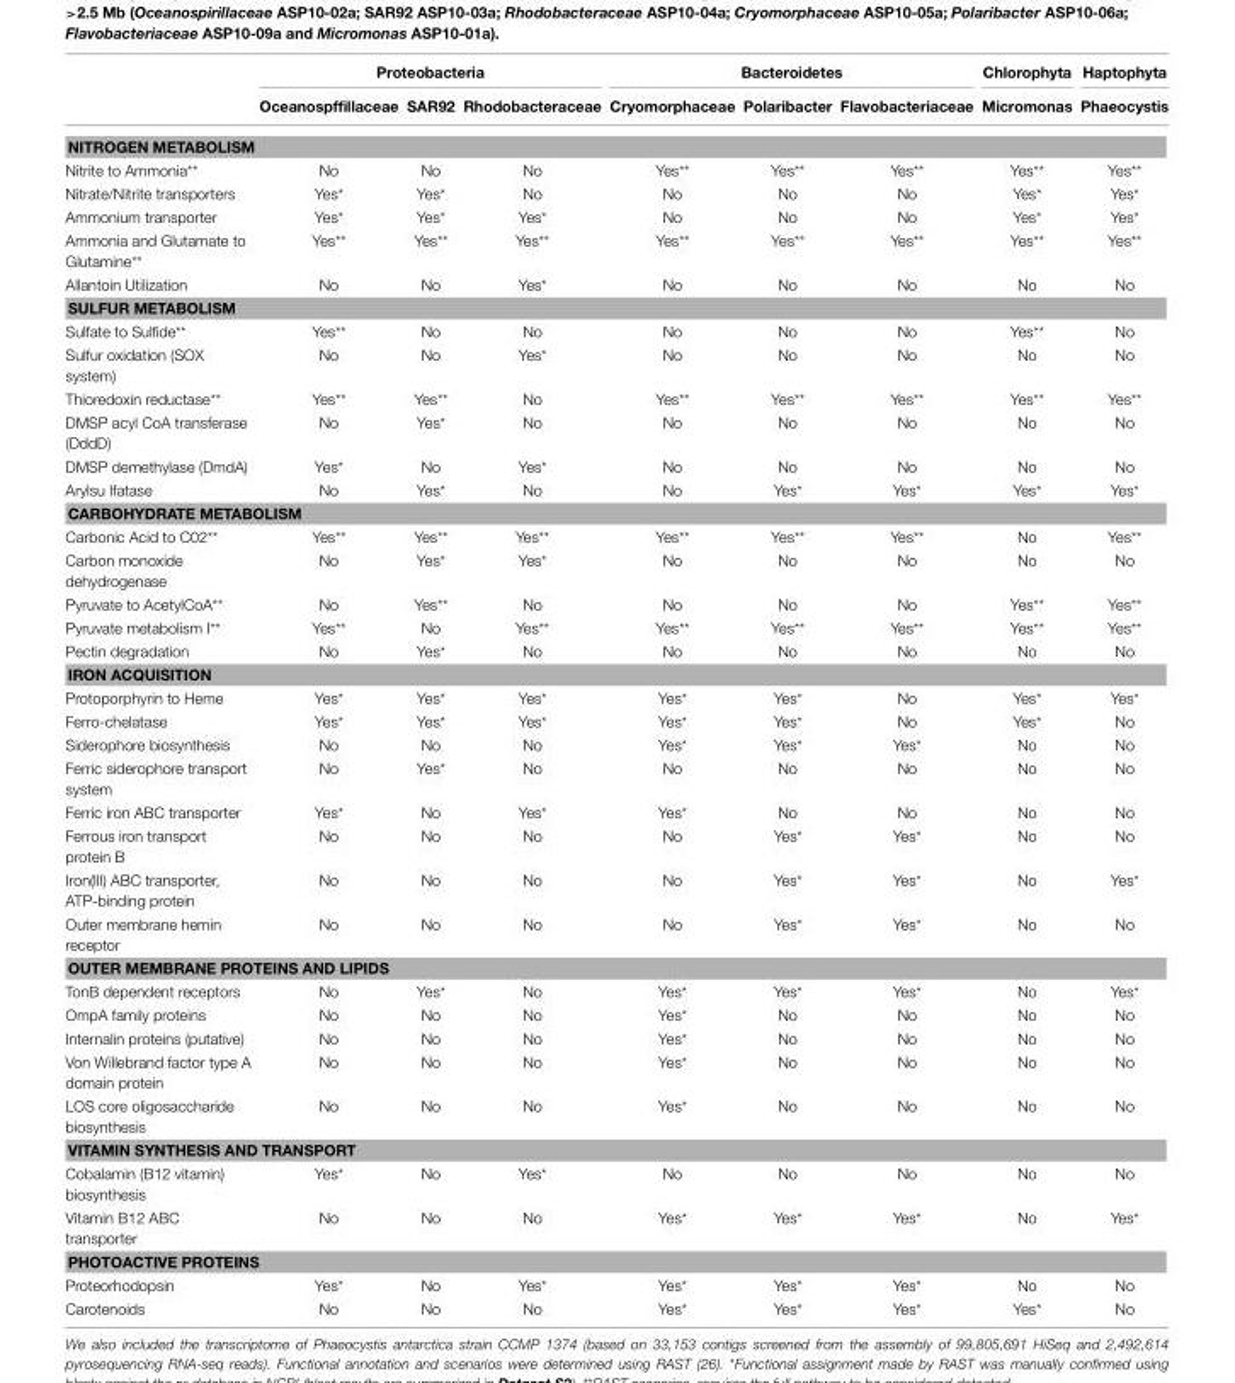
<table><thead><tr><td rowspan="2"></td><td colspan="3">Proteobacteria</td><td colspan="3">Bacteroidetes</td><td rowspan="2">Chlorophyta Micromonas</td><td rowspan="2">Haptophyta Phaeocystis</td></tr><tr><td>Oceanospffillaceae</td><td>SAR92</td><td>Rhodobacteraceae</td><td>Cryomorphaceae</td><td>Polaribacter</td><td>Flavobacteriaceae</td></tr></thead><tbody><tr><td colspan="9">NITROGEN METABOLISM</td></tr><tr><td>Nitrite to Ammonia**</td><td>No</td><td>No</td><td>No</td><td>Yes**</td><td>Yes**</td><td>Yes**</td><td>Yes**</td><td>Yes**</td></tr><tr><td>Nitrate/Nitrite transporters</td><td>Yes*</td><td>Yes*</td><td>No</td><td>No</td><td>No</td><td>No</td><td>Yes*</td><td>Yes*</td></tr><tr><td>Ammonium transporter</td><td>Yes*</td><td>Yes*</td><td>Yes*</td><td>No</td><td>No</td><td>No</td><td>Yes*</td><td>Yes*</td></tr><tr><td>Ammonia and Glutamate to Glutamine**</td><td>Yes**</td><td>Yes**</td><td>Yes**</td><td>Yes**</td><td>Yes**</td><td>Yes**</td><td>Yes**</td><td>Yes**</td></tr><tr><td>Allantoin Utilization</td><td>No</td><td>No</td><td>Yes*</td><td>No</td><td>No</td><td>No</td><td>No</td><td>No</td></tr><tr><td colspan="9">SULFUR METABOLISM</td></tr><tr><td>Sulfate to Sulfide**</td><td>Yes**</td><td>No</td><td>No</td><td>No</td><td>No</td><td>No</td><td>Yes**</td><td>No</td></tr><tr><td>Sulfur oxidation (SOX system)</td><td>No</td><td>No</td><td>Yes*</td><td>No</td><td>No</td><td>No</td><td>No</td><td>No</td></tr><tr><td>Thioredoxin reductase**</td><td>Yes**</td><td>Yes**</td><td>No</td><td>Yes**</td><td>Yes**</td><td>Yes**</td><td>Yes**</td><td>Yes**</td></tr><tr><td>DMSP acyl CoA transferase (DddD)</td><td>No</td><td>Yes*</td><td>No</td><td>No</td><td>No</td><td>No</td><td>No</td><td>No</td></tr><tr><td>DMSP demethylase (DmdA)</td><td>Yes*</td><td>No</td><td>Yes*</td><td>No</td><td>No</td><td>No</td><td>No</td><td>No</td></tr><tr><td>Arylsu Ifatase</td><td>No</td><td>Yes*</td><td>No</td><td>No</td><td>Yes*</td><td>Yes*</td><td>Yes*</td><td>Yes*</td></tr><tr><td colspan="9">CARBOHYDRATE METABOLISM</td></tr><tr><td>Carbonic Acid to C02**</td><td>Yes**</td><td>Yes**</td><td>Yes**</td><td>Yes**</td><td>Yes**</td><td>Yes**</td><td>No</td><td>Yes**</td></tr><tr><td>Carbon monoxide dehydrogenase</td><td>No</td><td>Yes*</td><td>Yes*</td><td>No</td><td>No</td><td>No</td><td>No</td><td>No</td></tr><tr><td>Pyruvate to AcetylCoA**</td><td>No</td><td>Yes**</td><td>No</td><td>No</td><td>No</td><td>No</td><td>Yes**</td><td>Yes**</td></tr><tr><td>Pyruvate metabolism I**</td><td>Yes**</td><td>No</td><td>Yes**</td><td>Yes**</td><td>Yes**</td><td>Yes**</td><td>Yes**</td><td>Yes**</td></tr><tr><td>Pectin degradation</td><td>No</td><td>Yes*</td><td>No</td><td>No</td><td>No</td><td>No</td><td>No</td><td>No</td></tr><tr><td colspan="9">IRON ACQUISITION</td></tr><tr><td>Protoporphyrin to Heme</td><td>Yes*</td><td>Yes*</td><td>Yes*</td><td>Yes*</td><td>Yes*</td><td>No</td><td>Yes*</td><td>Yes*</td></tr><tr><td>Ferro-chelatase</td><td>Yes*</td><td>Yes*</td><td>Yes*</td><td>Yes*</td><td>Yes*</td><td>No</td><td>Yes*</td><td>No</td></tr><tr><td>Siderophore biosynthesis</td><td>No</td><td>No</td><td>No</td><td>Yes*</td><td>Yes*</td><td>Yes*</td><td>No</td><td>No</td></tr><tr><td>Ferric siderophore transport system</td><td>No</td><td>Yes*</td><td>No</td><td>No</td><td>No</td><td>No</td><td>No</td><td>No</td></tr><tr><td>Ferric iron ABC transporter</td><td>Yes*</td><td>No</td><td>Yes*</td><td>Yes*</td><td>No</td><td>No</td><td>No</td><td>No</td></tr><tr><td>Ferrous iron transport protein B</td><td>No</td><td>No</td><td>No</td><td>No</td><td>Yes*</td><td>Yes*</td><td>No</td><td>No</td></tr><tr><td>Iron(lIl) ABC transporter, ATP-binding protein</td><td>No</td><td>No</td><td>No</td><td>No</td><td>Yes*</td><td>Yes*</td><td>No</td><td>Yes*</td></tr><tr><td>Outer membrane hemin receptor</td><td>No</td><td>No</td><td>No</td><td>No</td><td>Yes*</td><td>Yes*</td><td>No</td><td>No</td></tr><tr><td colspan="9">OUTER MEMBRANE PROTEINS AND LIPIDS</td></tr><tr><td>TonB dependent receptors</td><td>No</td><td>Yes*</td><td>No</td><td>Yes*</td><td>Yes*</td><td>Yes*</td><td>No</td><td>Yes*</td></tr><tr><td>OmpA family proteins</td><td>No</td><td>No</td><td>No</td><td>Yes*</td><td>No</td><td>No</td><td>No</td><td>No</td></tr><tr><td>Internalin proteins (putative)</td><td>No</td><td>No</td><td>No</td><td>Yes*</td><td>No</td><td>No</td><td>No</td><td>No</td></tr><tr><td>Von Willebrand factor type A domain protein</td><td>No</td><td>No</td><td>No</td><td>Yes*</td><td>No</td><td>No</td><td>No</td><td>No</td></tr><tr><td>LOS core oligosaccharide biosynthesis</td><td>No</td><td>No</td><td>No</td><td>Yes*</td><td>No</td><td>No</td><td>No</td><td>No</td></tr><tr><td colspan="9">VITAMIN SYNTHESIS AND TRANSPORT</td></tr><tr><td>Cobalamin (B12 vitamin) biosynthesis</td><td>Yes*</td><td>No</td><td>Yes*</td><td>No</td><td>No</td><td>No</td><td>No</td><td>No</td></tr><tr><td>Vitamin B12 ABC transporter</td><td>No</td><td>No</td><td>No</td><td>Yes*</td><td>Yes*</td><td>Yes*</td><td>No</td><td>Yes*</td></tr><tr><td colspan="9">PHOTOACTIVE PROTEINS</td></tr><tr><td>Proteorhodopsin</td><td>Yes*</td><td>No</td><td>Yes*</td><td>Yes*</td><td>Yes*</td><td>Yes*</td><td>No</td><td>No</td></tr><tr><td>Carotenoids</td><td>No</td><td>No</td><td>No</td><td>Yes*</td><td>Yes*</td><td>Yes*</td><td>Yes*</td><td>No</td></tr></tbody></table>